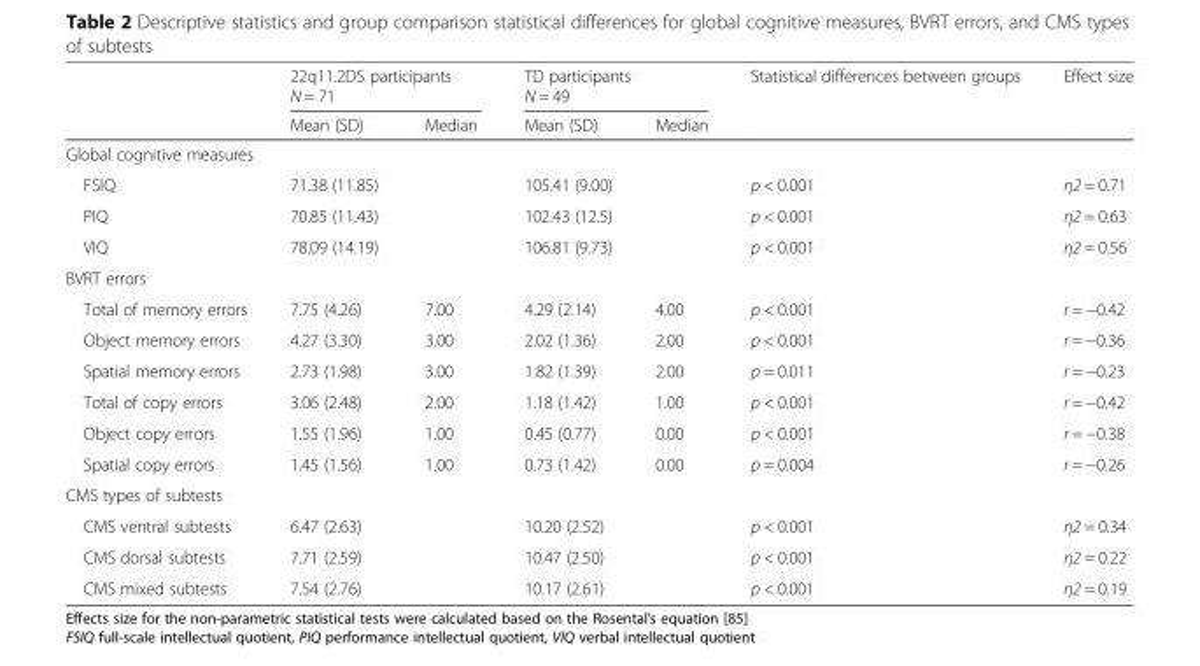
<table><thead><tr><td rowspan="2"></td><td colspan="2">22q11.2DS participants N = 71</td><td colspan="2">TD participants N = 49</td><td rowspan="2">Statistical differences between groups</td><td rowspan="2">Effect size</td></tr><tr><td>Mean (SD)</td><td>Median</td><td>Mean (SD)</td><td>Median</td></tr></thead><tbody><tr><td colspan="7">Global cognitive measures</td></tr><tr><td>FSIQ</td><td>71.38 (11.85)</td><td></td><td>105.41 (9.00)</td><td></td><td>p &lt; 0.001</td><td>η2 = 0.71</td></tr><tr><td>PIQ</td><td>70.85 (11.43)</td><td></td><td>102.43 (12.5)</td><td></td><td>p &lt; 0.001</td><td>η2 = 0.63</td></tr><tr><td>VIQ</td><td>78.09 (14.19)</td><td></td><td>106.81 (9.73)</td><td></td><td>p &lt; 0.001</td><td>η2 = 0.56</td></tr><tr><td colspan="7">BVRT errors</td></tr><tr><td>Total of memory errors</td><td>7.75 (4.26)</td><td>7.00</td><td>4.29 (2.14)</td><td>4.00</td><td>p &lt; 0.001</td><td>r = −0.42</td></tr><tr><td>Object memory errors</td><td>4.27 (3.30)</td><td>3.00</td><td>2.02 (1.36)</td><td>2.00</td><td>p &lt; 0.001</td><td>r = −0.36</td></tr><tr><td>Spatial memory errors</td><td>2.73 (1.98)</td><td>3.00</td><td>1.82 (1.39)</td><td>2.00</td><td>p = 0.011</td><td>r = −0.23</td></tr><tr><td>Total of copy errors</td><td>3.06 (2.48)</td><td>2.00</td><td>1.18 (1.42)</td><td>1.00</td><td>p &lt; 0.001</td><td>r = −0.42</td></tr><tr><td>Object copy errors</td><td>1.55 (1.96)</td><td>1.00</td><td>0.45 (0.77)</td><td>0.00</td><td>p &lt; 0.001</td><td>r = −0.38</td></tr><tr><td>Spatial copy errors</td><td>1.45 (1.56)</td><td>1.00</td><td>0.73 (1.42)</td><td>0.00</td><td>p = 0.004</td><td>r = −0.26</td></tr><tr><td colspan="7">CMS types of subtests</td></tr><tr><td>CMS ventral subtests</td><td>6.47 (2.63)</td><td></td><td>10.20 (2.52)</td><td></td><td>p &lt; 0.001</td><td>η2 = 0.34</td></tr><tr><td>CMS dorsal subtests</td><td>7.71 (2.59)</td><td></td><td>10.47 (2.50)</td><td></td><td>p &lt; 0.001</td><td>η2 = 0.22</td></tr><tr><td>CMS mixed subtests</td><td>7.54 (2.76)</td><td></td><td>10.17 (2.61)</td><td></td><td>p &lt; 0.001</td><td>η2 = 0.19</td></tr></tbody></table>